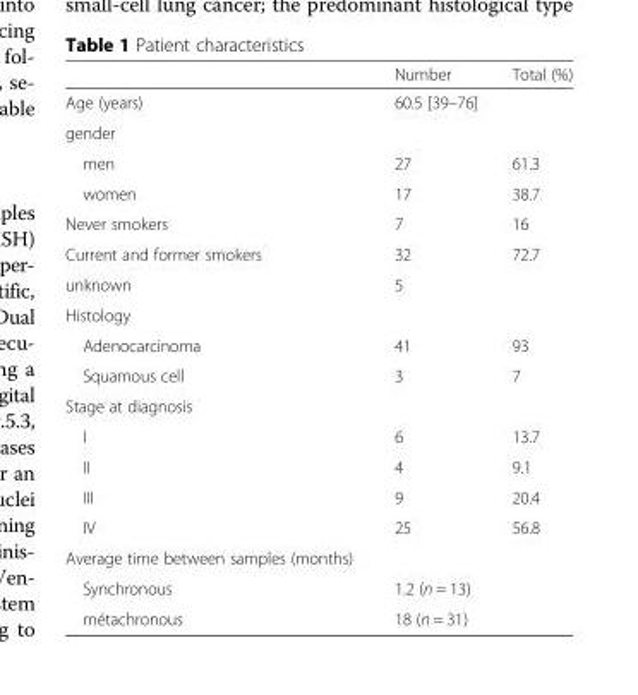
<table><thead><tr><td></td><td>Number</td><td>Total (%)</td></tr></thead><tbody><tr><td>Age (years)</td><td colspan="2">60.5 [39–76]</td></tr><tr><td colspan="3">gender</td></tr><tr><td>men</td><td>27</td><td>61.3</td></tr><tr><td>women</td><td>17</td><td>38.7</td></tr><tr><td>Never smokers</td><td>7</td><td>16</td></tr><tr><td>Current and former smokers</td><td>32</td><td>72.7</td></tr><tr><td>unknown</td><td>5</td><td></td></tr><tr><td colspan="3">Histology</td></tr><tr><td>Adenocarcinoma</td><td>41</td><td>93</td></tr><tr><td>Squamous cell</td><td>3</td><td>7</td></tr><tr><td colspan="3">Stage at diagnosis</td></tr><tr><td>I</td><td>6</td><td>13.7</td></tr><tr><td>II</td><td>4</td><td>9.1</td></tr><tr><td>III</td><td>9</td><td>20.4</td></tr><tr><td>IV</td><td>25</td><td>56.8</td></tr><tr><td colspan="3">Average time between samples (months)</td></tr><tr><td>Synchronous</td><td>1.2 (n = 13)</td><td></td></tr><tr><td>métachronous</td><td>18 (n = 31)</td><td></td></tr></tbody></table>